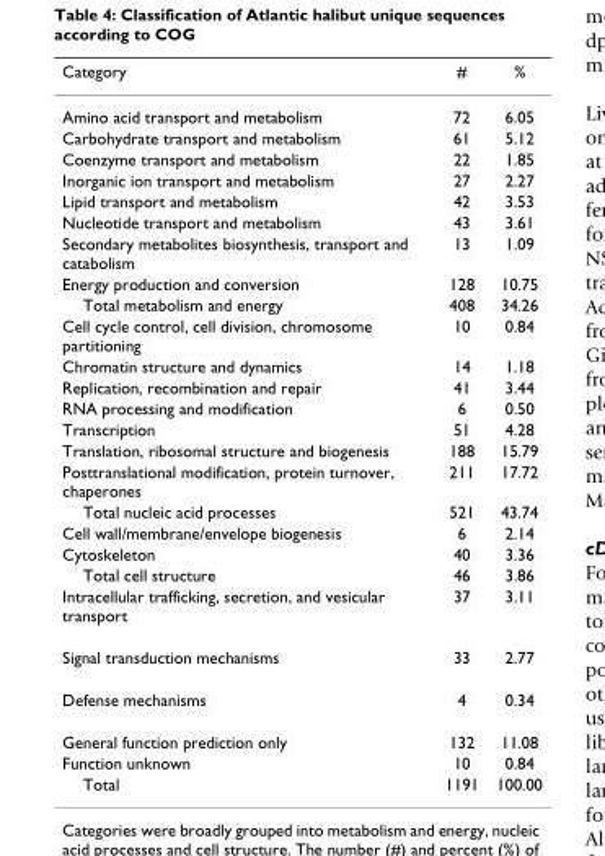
<table><thead><tr><td>Category</td><td>#</td><td>%</td></tr></thead><tbody><tr><td>Amino acid transport and metabolism</td><td>72</td><td>6.05</td></tr><tr><td>Carbohydrate transport and metabolism</td><td>61</td><td>5.12</td></tr><tr><td>Coenzyme transport and metabolism</td><td>22</td><td>1.85</td></tr><tr><td>Inorganic ion transport and metabolism</td><td>27</td><td>2.27</td></tr><tr><td>Lipid transport and metabolism</td><td>42</td><td>3.53</td></tr><tr><td>Nucleotide transport and metabolism</td><td>43</td><td>3.61</td></tr><tr><td>Secondary metabolites biosynthesis, transport and catabolism</td><td>13</td><td>1.09</td></tr><tr><td>Energy production and conversion</td><td>128</td><td>10.75</td></tr><tr><td>Total metabolism and energy</td><td>408</td><td>34.26</td></tr><tr><td>Cell cycle control, cell division, chromosome partitioning</td><td>10</td><td>0.84</td></tr><tr><td>Chromatin structure and dynamics</td><td>14</td><td>1.18</td></tr><tr><td>Replication, recombination and repair</td><td>41</td><td>3.44</td></tr><tr><td>RNA processing and modification</td><td>6</td><td>0.50</td></tr><tr><td>Transcription</td><td>51</td><td>4.28</td></tr><tr><td>Translation, ribosomal structure and biogenesis</td><td>188</td><td>15.79</td></tr><tr><td>Posttranslational modification, protein turnover, chaperones</td><td>211</td><td>17.72</td></tr><tr><td>Total nucleic acid processes</td><td>521</td><td>43.74</td></tr><tr><td>Cell wall/membrane/envelope biogenesis</td><td>6</td><td>2.14</td></tr><tr><td>Cytoskeleton</td><td>40</td><td>3.36</td></tr><tr><td>Total cell structure</td><td>46</td><td>3.86</td></tr><tr><td>Intracellular trafficking, secretion, and vesicular transport</td><td>37</td><td>3.11</td></tr><tr><td>Signal transduction mechanisms</td><td>33</td><td>2.77</td></tr><tr><td>Defense mechanisms</td><td>4</td><td>0.34</td></tr><tr><td>General function prediction only</td><td>132</td><td>11.08</td></tr><tr><td>Function unknown</td><td>10</td><td>0.84</td></tr><tr><td>Total</td><td>1191</td><td>100.00</td></tr></tbody></table>